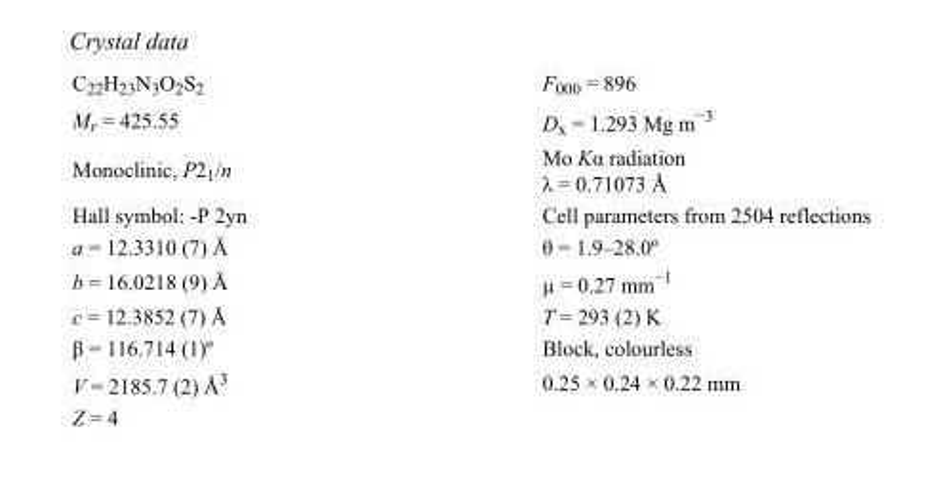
<table><tbody><tr><td>C<sub>22</sub>H<sub>23</sub>N<sub>3</sub>O<sub>2</sub>S<sub>2</sub></td><td>F<sub>000</sub> = 896</td></tr><tr><td>M<sub>r</sub> = 425.55</td><td>D<sub>x</sub> = 1.293 Mg m<sup>−3</sup></td></tr><tr><td>Monoclinic, P2<sub>1</sub>/n</td><td>Mo Kα radiation λ = 0.71073 Å</td></tr><tr><td>Hall symbol: -P 2yn</td><td>Cell parameters from 2504 reflections</td></tr><tr><td>a = 12.3310 (7) Å</td><td>θ = 1.9–28.0º</td></tr><tr><td>b = 16.0218 (9) Å</td><td>µ = 0.27 mm<sup>−1</sup></td></tr><tr><td>c = 12.3852 (7) Å</td><td>T = 293 (2) K</td></tr><tr><td>β = 116.714 (1)º</td><td>Block, colourless</td></tr><tr><td>V = 2185.7 (2) Å<sup>3</sup></td><td>0.25 × 0.24 × 0.22 mm</td></tr><tr><td>Z = 4</td><td></td></tr></tbody></table>